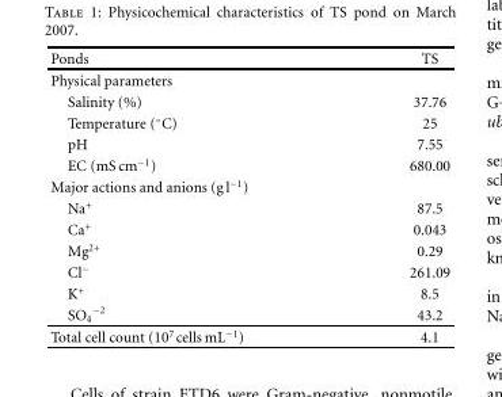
<table><thead><tr><td>Ponds</td><td>TS</td></tr></thead><tbody><tr><td colspan="2">Physical parameters</td></tr><tr><td>Salinity (%)</td><td>37.76</td></tr><tr><td>Temperature (◦C)</td><td>25</td></tr><tr><td>pH</td><td>7.55</td></tr><tr><td>EC (mS cm<sup>−1</sup>)</td><td>680.00</td></tr><tr><td colspan="2">Major actions and anions (g l<sup>−1</sup>)</td></tr><tr><td>Na<sup>+</sup></td><td>87.5</td></tr><tr><td>Ca<sup>+</sup></td><td>0.043</td></tr><tr><td>Mg<sup>2+</sup></td><td>0.29</td></tr><tr><td>Cl<sup>−</sup></td><td>261.09</td></tr><tr><td>K<sup>+</sup></td><td>8.5</td></tr><tr><td>SO<sub>4</sub> <sup>−2</sup></td><td>43.2</td></tr><tr><td>Total cell count (10<sup>7</sup>cells mL<sup>−1</sup>)</td><td>4.1</td></tr></tbody></table>